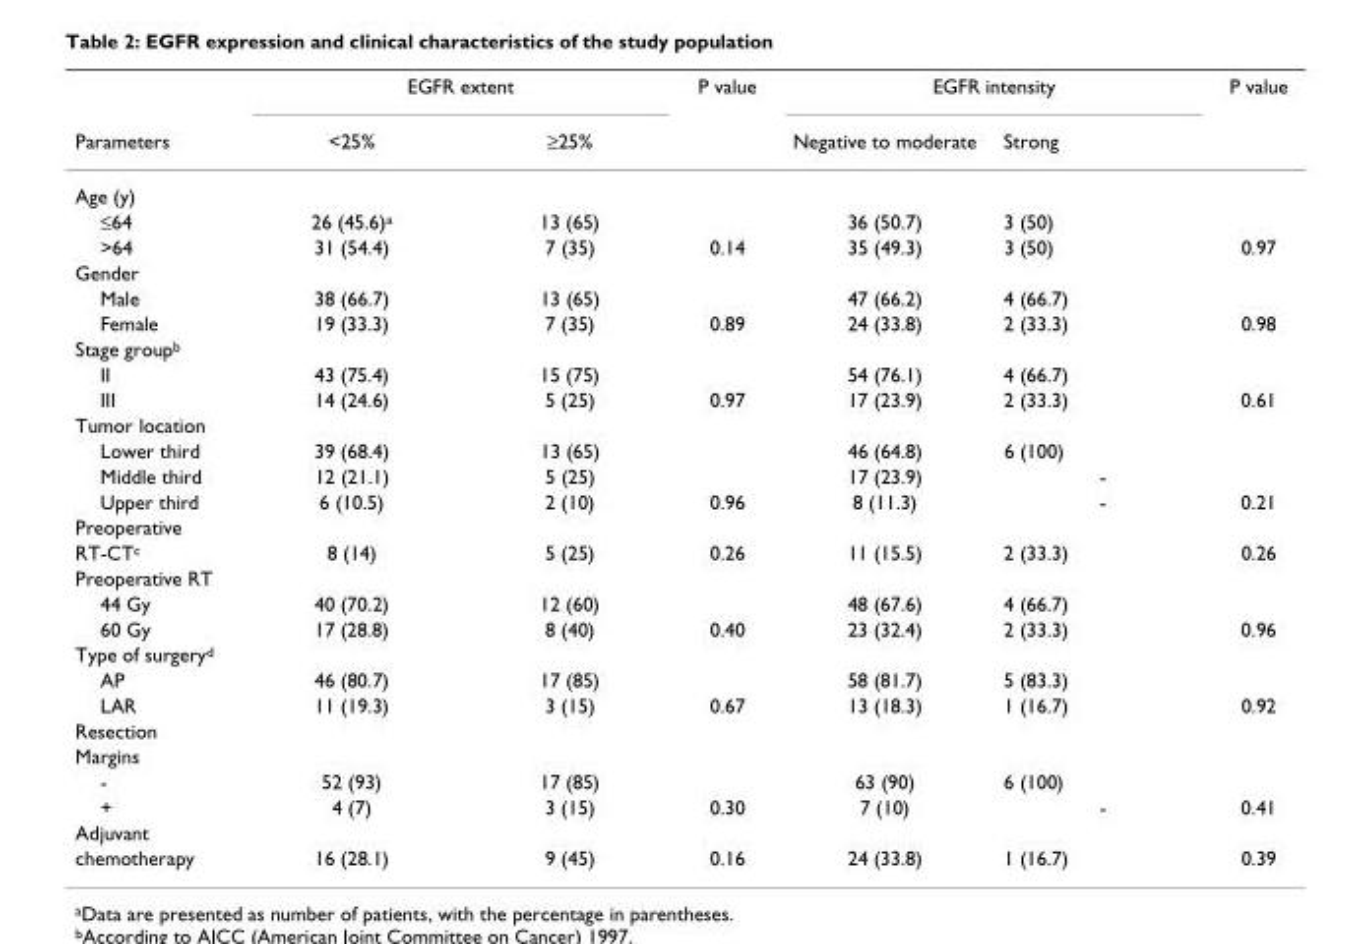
<table><thead><tr><td rowspan="2">Parameters</td><td colspan="2">EGFR extent</td><td rowspan="2">P value</td><td colspan="2">EGFR intensity</td><td rowspan="2">P value</td></tr><tr><td>&lt;25%</td><td>≥25%</td><td>Negative to moderate</td><td>Strong</td></tr></thead><tbody><tr><td colspan="7">Age (y)</td></tr><tr><td>≤64</td><td>26 (45.6)a</td><td>13 (65)</td><td></td><td>36 (50.7)</td><td>3 (50)</td><td></td></tr><tr><td>&gt;64</td><td>31 (54.4)</td><td>7 (35)</td><td>0.14</td><td>35 (49.3)</td><td>3 (50)</td><td>0.97</td></tr><tr><td colspan="7">Gender</td></tr><tr><td>Male</td><td>38 (66.7)</td><td>13 (65)</td><td></td><td>47 (66.2)</td><td>4 (66.7)</td><td></td></tr><tr><td>Female</td><td>19 (33.3)</td><td>7 (35)</td><td>0.89</td><td>24 (33.8)</td><td>2 (33.3)</td><td>0.98</td></tr><tr><td colspan="7">Stage groupb</td></tr><tr><td>II</td><td>43 (75.4)</td><td>15 (75)</td><td></td><td>54 (76.1)</td><td>4 (66.7)</td><td></td></tr><tr><td>III</td><td>14 (24.6)</td><td>5 (25)</td><td>0.97</td><td>17 (23.9)</td><td>2 (33.3)</td><td>0.61</td></tr><tr><td colspan="7">Tumor location</td></tr><tr><td>Lower third</td><td>39 (68.4)</td><td>13 (65)</td><td></td><td>46 (64.8)</td><td>6 (100)</td><td></td></tr><tr><td>Middle third</td><td>12 (21.1)</td><td>5 (25)</td><td></td><td>17 (23.9)</td><td>-</td><td></td></tr><tr><td>Upper third</td><td>6 (10.5)</td><td>2 (10)</td><td>0.96</td><td>8 (11.3)</td><td>-</td><td>0.21</td></tr><tr><td colspan="7">Preoperative</td></tr><tr><td>RT-CTc</td><td>8 (14)</td><td>5 (25)</td><td>0.26</td><td>11 (15.5)</td><td>2 (33.3)</td><td>0.26</td></tr><tr><td colspan="7">Preoperative RT</td></tr><tr><td>44 Gy</td><td>40 (70.2)</td><td>12 (60)</td><td></td><td>48 (67.6)</td><td>4 (66.7)</td><td></td></tr><tr><td>60 Gy</td><td>17 (28.8)</td><td>8 (40)</td><td>0.40</td><td>23 (32.4)</td><td>2 (33.3)</td><td>0.96</td></tr><tr><td colspan="7">Type of surgeryd</td></tr><tr><td>AP</td><td>46 (80.7)</td><td>17 (85)</td><td></td><td>58 (81.7)</td><td>5 (83.3)</td><td></td></tr><tr><td>LAR</td><td>11 (19.3)</td><td>3 (15)</td><td>0.67</td><td>13 (18.3)</td><td>1 (16.7)</td><td>0.92</td></tr><tr><td colspan="7">Resection</td></tr><tr><td colspan="7">Margins</td></tr><tr><td>-</td><td>52 (93)</td><td>17 (85)</td><td></td><td>63 (90)</td><td>6 (100)</td><td></td></tr><tr><td>+</td><td>4 (7)</td><td>3 (15)</td><td>0.30</td><td>7 (10)</td><td>-</td><td>0.41</td></tr><tr><td colspan="7">Adjuvant</td></tr><tr><td>chemotherapy</td><td>16 (28.1)</td><td>9 (45)</td><td>0.16</td><td>24 (33.8)</td><td>1 (16.7)</td><td>0.39</td></tr></tbody></table>